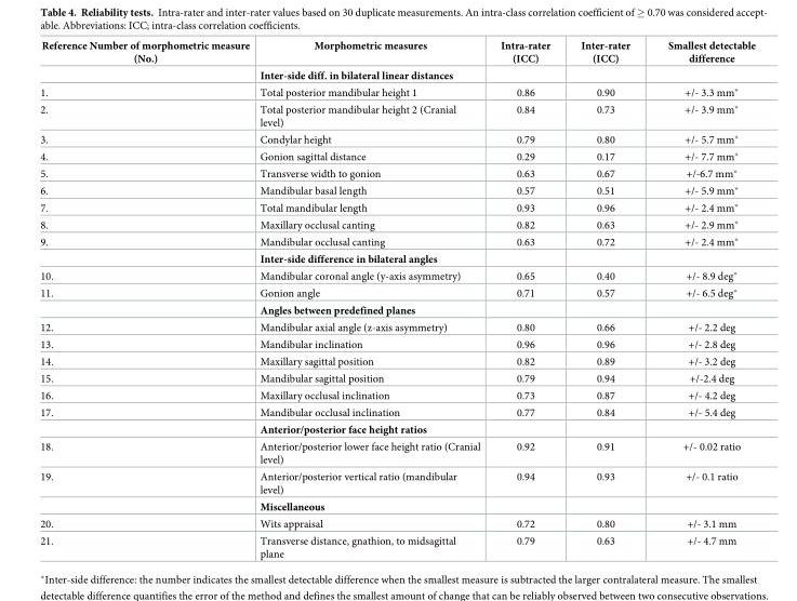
<table><thead><tr><td>Reference Number of morphometric measure (No.)</td><td>Morphometric measures</td><td>Intra-rater (ICC)</td><td>Inter-rater (ICC)</td><td>Smallest detectable difference</td></tr></thead><tbody><tr><td></td><td>Inter-side diff. in bilateral linear distances</td><td></td><td></td><td></td></tr><tr><td>1.</td><td>Total posterior mandibular height 1</td><td>0.86</td><td>0.90</td><td>+/- 3.3 mm*</td></tr><tr><td>2.</td><td>Total posterior mandibular height 2 (Cranial level)</td><td>0.84</td><td>0.73</td><td>+/- 3.9 mm*</td></tr><tr><td>3.</td><td>Condylar height</td><td>0.79</td><td>0.80</td><td>+/- 5.7 mm*</td></tr><tr><td>4.</td><td>Gonion sagittal distance</td><td>0.29</td><td>0.17</td><td>+/- 7.7 mm*</td></tr><tr><td>5.</td><td>Transverse width to gonion</td><td>0.63</td><td>0.67</td><td>+/-6.7 mm*</td></tr><tr><td>6.</td><td>Mandibular basal length</td><td>0.57</td><td>0.51</td><td>+/- 5.9 mm*</td></tr><tr><td>7.</td><td>Total mandibular length</td><td>0.93</td><td>0.96</td><td>+/- 2.4 mm*</td></tr><tr><td>8.</td><td>Maxillary occlusal canting</td><td>0.82</td><td>0.63</td><td>+/- 2.9 mm*</td></tr><tr><td rowspan="2">9.</td><td>Mandibular occlusal canting</td><td>0.63</td><td>0.72</td><td>+/- 2.4 mm*</td></tr><tr><td>Inter-side difference in bilateral angles</td><td></td><td></td><td></td></tr><tr><td>10.</td><td>Mandibular coronal angle (y-axis asymmetry)</td><td>0.65</td><td>0.40</td><td>+/- 8.9 deg*</td></tr><tr><td rowspan="2">11.</td><td>Gonion angle</td><td>0.71</td><td>0.57</td><td>+/- 6.5 deg*</td></tr><tr><td>Angles between predefined planes</td><td></td><td></td><td></td></tr><tr><td>12.</td><td>Mandibular axial angle (z-axis asymmetry)</td><td>0.80</td><td>0.66</td><td>+/- 2.2 deg</td></tr><tr><td>13.</td><td>Mandibular inclination</td><td>0.96</td><td>0.96</td><td>+/- 2.8 deg</td></tr><tr><td>14.</td><td>Maxillary sagittal position</td><td>0.82</td><td>0.89</td><td>+/- 3.2 deg</td></tr><tr><td>15.</td><td>Mandibular sagittal position</td><td>0.79</td><td>0.94</td><td>+/-2.4 deg</td></tr><tr><td>16.</td><td>Maxillary occlusal inclination</td><td>0.73</td><td>0.87</td><td>+/- 4.2 deg</td></tr><tr><td rowspan="2">17.</td><td>Mandibular occlusal inclination</td><td>0.77</td><td>0.84</td><td>+/- 5.4 deg</td></tr><tr><td>Anterior/posterior face height ratios</td><td></td><td></td><td></td></tr><tr><td>18.</td><td>Anterior/posterior lower face height ratio (Cranial level)</td><td>0.92</td><td>0.91</td><td>+/- 0.02 ratio</td></tr><tr><td rowspan="2">19.</td><td>Anterior/posterior vertical ratio (mandibular level)</td><td>0.94</td><td>0.93</td><td>+/- 0.1 ratio</td></tr><tr><td>Miscellaneous</td><td></td><td></td><td></td></tr><tr><td>20.</td><td>Wits appraisal</td><td>0.72</td><td>0.80</td><td>+/- 3.1 mm</td></tr><tr><td>21.</td><td>Transverse distance, gnathion, to midsagittal plane</td><td>0.79</td><td>0.63</td><td>+/- 4.7 mm</td></tr></tbody></table>